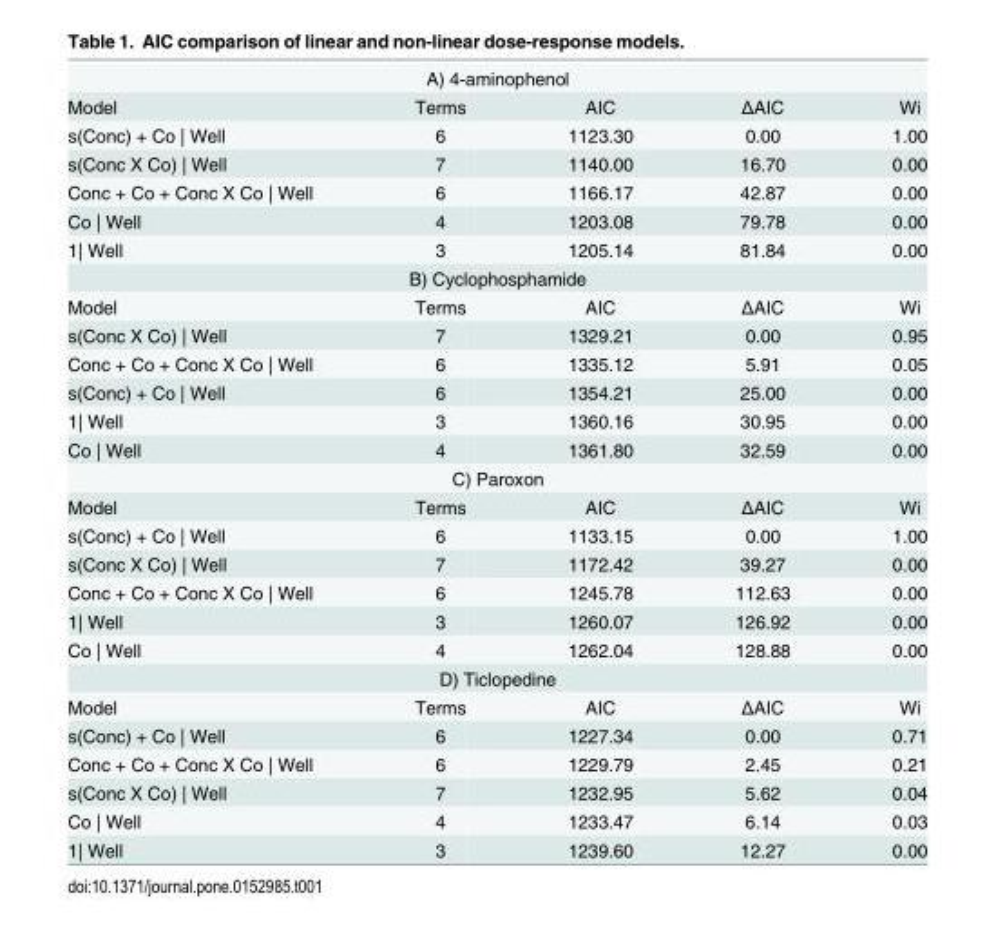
<table><tbody><tr><td colspan="5">A) 4-aminophenol</td></tr><tr><td>Model</td><td>Terms</td><td>AIC</td><td>ΔAIC</td><td>Wi</td></tr><tr><td>s(Conc) + Co | Well</td><td>6</td><td>1123.30</td><td>0.00</td><td>1.00</td></tr><tr><td>s(Conc X Co) | Well</td><td>7</td><td>1140.00</td><td>16.70</td><td>0.00</td></tr><tr><td>Conc + Co + Conc X Co | Well</td><td>6</td><td>1166.17</td><td>42.87</td><td>0.00</td></tr><tr><td>Co | Well</td><td>4</td><td>1203.08</td><td>79.78</td><td>0.00</td></tr><tr><td>1| Well</td><td>3</td><td>1205.14</td><td>81.84</td><td>0.00</td></tr><tr><td colspan="5">B) Cyclophosphamide</td></tr><tr><td>Model</td><td>Terms</td><td>AIC</td><td>ΔAIC</td><td>Wi</td></tr><tr><td>s(Conc X Co) | Well</td><td>7</td><td>1329.21</td><td>0.00</td><td>0.95</td></tr><tr><td>Conc + Co + Conc X Co | Well</td><td>6</td><td>1335.12</td><td>5.91</td><td>0.05</td></tr><tr><td>s(Conc) + Co | Well</td><td>6</td><td>1354.21</td><td>25.00</td><td>0.00</td></tr><tr><td>1| Well</td><td>3</td><td>1360.16</td><td>30.95</td><td>0.00</td></tr><tr><td>Co | Well</td><td>4</td><td>1361.80</td><td>32.59</td><td>0.00</td></tr><tr><td colspan="5">C) Paroxon</td></tr><tr><td>Model</td><td>Terms</td><td>AIC</td><td>ΔAIC</td><td>Wi</td></tr><tr><td>s(Conc) + Co | Well</td><td>6</td><td>1133.15</td><td>0.00</td><td>1.00</td></tr><tr><td>s(Conc X Co) | Well</td><td>7</td><td>1172.42</td><td>39.27</td><td>0.00</td></tr><tr><td>Conc + Co + Conc X Co | Well</td><td>6</td><td>1245.78</td><td>112.63</td><td>0.00</td></tr><tr><td>1| Well</td><td>3</td><td>1260.07</td><td>126.92</td><td>0.00</td></tr><tr><td>Co | Well</td><td>4</td><td>1262.04</td><td>128.88</td><td>0.00</td></tr><tr><td colspan="5">D) Ticlopedine</td></tr><tr><td>Model</td><td>Terms</td><td>AIC</td><td>ΔAIC</td><td>Wi</td></tr><tr><td>s(Conc) + Co | Well</td><td>6</td><td>1227.34</td><td>0.00</td><td>0.71</td></tr><tr><td>Conc + Co + Conc X Co | Well</td><td>6</td><td>1229.79</td><td>2.45</td><td>0.21</td></tr><tr><td>s(Conc X Co) | Well</td><td>7</td><td>1232.95</td><td>5.62</td><td>0.04</td></tr><tr><td>Co | Well</td><td>4</td><td>1233.47</td><td>6.14</td><td>0.03</td></tr><tr><td>1| Well</td><td>3</td><td>1239.60</td><td>12.27</td><td>0.00</td></tr></tbody></table>